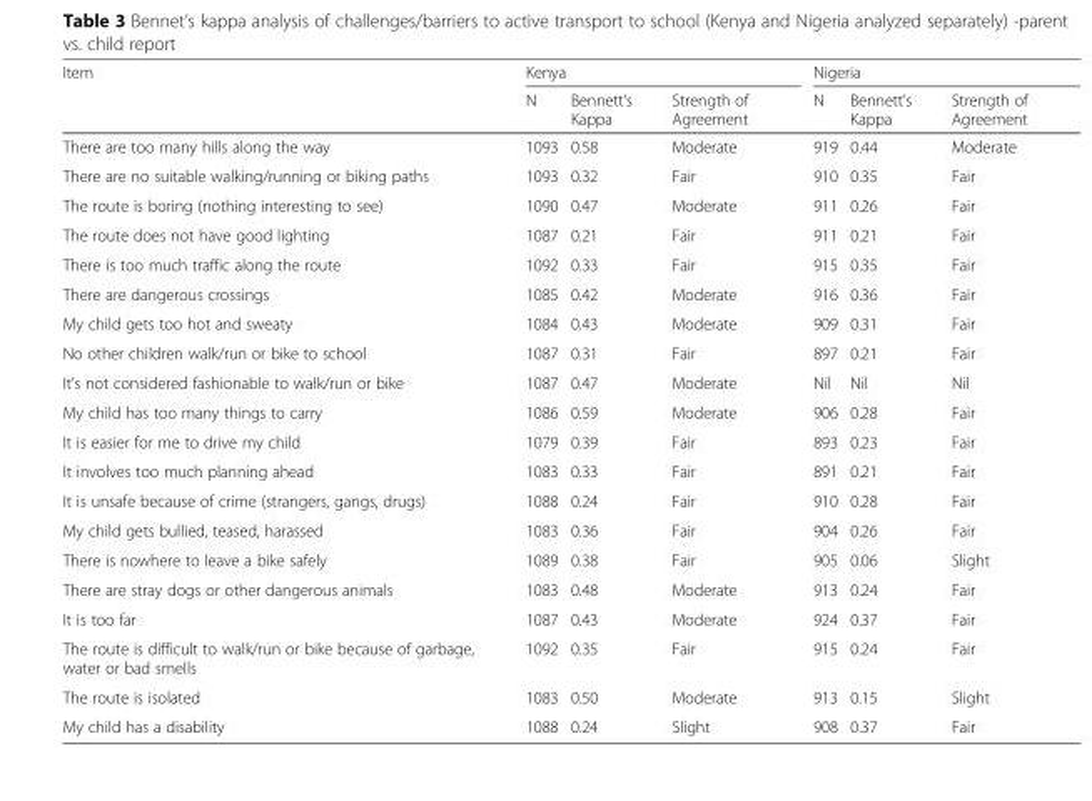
<table><thead><tr><td rowspan="2">Item</td><td colspan="3">Kenya</td><td colspan="3">Nigeria</td></tr><tr><td>N</td><td>Bennett’s Kappa</td><td>Strength of Agreement</td><td>N</td><td>Bennett’s Kappa</td><td>Strength of Agreement</td></tr></thead><tbody><tr><td>There are too many hills along the way</td><td>1093</td><td>0.58</td><td>Moderate</td><td>919</td><td>0.44</td><td>Moderate</td></tr><tr><td>There are no suitable walking/running or biking paths</td><td>1093</td><td>0.32</td><td>Fair</td><td>910</td><td>0.35</td><td>Fair</td></tr><tr><td>The route is boring (nothing interesting to see)</td><td>1090</td><td>0.47</td><td>Moderate</td><td>911</td><td>0.26</td><td>Fair</td></tr><tr><td>The route does not have good lighting</td><td>1087</td><td>0.21</td><td>Fair</td><td>911</td><td>0.21</td><td>Fair</td></tr><tr><td>There is too much traffic along the route</td><td>1092</td><td>0.33</td><td>Fair</td><td>915</td><td>0.35</td><td>Fair</td></tr><tr><td>There are dangerous crossings</td><td>1085</td><td>0.42</td><td>Moderate</td><td>916</td><td>0.36</td><td>Fair</td></tr><tr><td>My child gets too hot and sweaty</td><td>1084</td><td>0.43</td><td>Moderate</td><td>909</td><td>0.31</td><td>Fair</td></tr><tr><td>No other children walk/run or bike to school</td><td>1087</td><td>0.31</td><td>Fair</td><td>897</td><td>0.21</td><td>Fair</td></tr><tr><td>It’s not considered fashionable to walk/run or bike</td><td>1087</td><td>0.47</td><td>Moderate</td><td>Nil</td><td>Nil</td><td>Nil</td></tr><tr><td>My child has too many things to carry</td><td>1086</td><td>0.59</td><td>Moderate</td><td>906</td><td>0.28</td><td>Fair</td></tr><tr><td>It is easier for me to drive my child</td><td>1079</td><td>0.39</td><td>Fair</td><td>893</td><td>0.23</td><td>Fair</td></tr><tr><td>It involves too much planning ahead</td><td>1083</td><td>0.33</td><td>Fair</td><td>891</td><td>0.21</td><td>Fair</td></tr><tr><td>It is unsafe because of crime (strangers, gangs, drugs)</td><td>1088</td><td>0.24</td><td>Fair</td><td>910</td><td>0.28</td><td>Fair</td></tr><tr><td>My child gets bullied, teased, harassed</td><td>1083</td><td>0.36</td><td>Fair</td><td>904</td><td>0.26</td><td>Fair</td></tr><tr><td>There is nowhere to leave a bike safely</td><td>1089</td><td>0.38</td><td>Fair</td><td>905</td><td>0.06</td><td>Slight</td></tr><tr><td>There are stray dogs or other dangerous animals</td><td>1083</td><td>0.48</td><td>Moderate</td><td>913</td><td>0.24</td><td>Fair</td></tr><tr><td>It is too far</td><td>1087</td><td>0.43</td><td>Moderate</td><td>924</td><td>0.37</td><td>Fair</td></tr><tr><td>The route is difficult to walk/run or bike because of garbage, water or bad smells</td><td>1092</td><td>0.35</td><td>Fair</td><td>915</td><td>0.24</td><td>Fair</td></tr><tr><td>The route is isolated</td><td>1083</td><td>0.50</td><td>Moderate</td><td>913</td><td>0.15</td><td>Slight</td></tr><tr><td>My child has a disability</td><td>1088</td><td>0.24</td><td>Slight</td><td>908</td><td>0.37</td><td>Fair</td></tr></tbody></table>